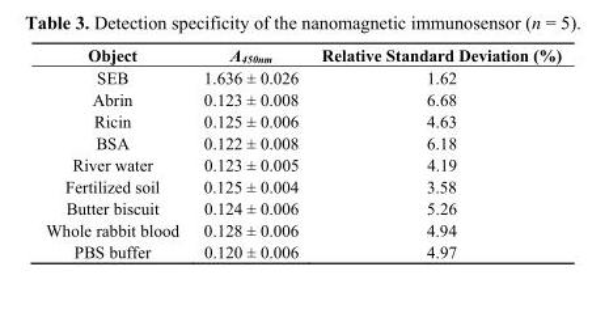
<table><thead><tr><td>Object</td><td>A<sub>450nm</sub></td><td>Relative Standard Deviation (%)</td></tr></thead><tbody><tr><td>SEB</td><td>1.636 ± 0.026</td><td>1.62</td></tr><tr><td>Abrin</td><td>0.123 ± 0.008</td><td>6.68</td></tr><tr><td>Ricin</td><td>0.125 ± 0.006</td><td>4.63</td></tr><tr><td>BSA</td><td>0.122 ± 0.008</td><td>6.18</td></tr><tr><td>River water</td><td>0.123 ± 0.005</td><td>4.19</td></tr><tr><td>Fertilized soil</td><td>0.125 ± 0.004</td><td>3.58</td></tr><tr><td>Butter biscuit</td><td>0.124 ± 0.006</td><td>5.26</td></tr><tr><td>Whole rabbit blood</td><td>0.128 ± 0.006</td><td>4.94</td></tr><tr><td>PBS buffer</td><td>0.120 ± 0.006</td><td>4.97</td></tr></tbody></table>